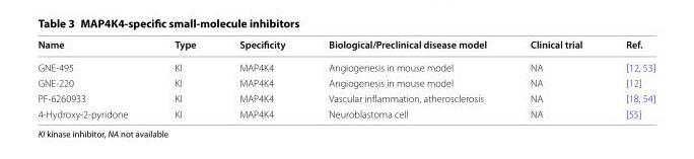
<table><thead><tr><td>Name</td><td>Type</td><td>Specificity</td><td>Biological/Preclinical disease model</td><td>Clinical trial</td><td>Ref.</td></tr></thead><tbody><tr><td>GNE-495</td><td>KI</td><td>MAP4K4</td><td>Angiogenesis in mouse model</td><td>NA</td><td>[12, 53]</td></tr><tr><td>GNE-220</td><td>KI</td><td>MAP4K4</td><td>Angiogenesis in mouse model</td><td>NA</td><td>[12]</td></tr><tr><td>PF-6260933</td><td>KI</td><td>MAP4K4</td><td>Vascular inflammation, atherosclerosis</td><td>NA</td><td>[18, 54]</td></tr><tr><td>4-Hydroxy-2-pyridone</td><td>KI</td><td>MAP4K4</td><td>Neuroblastoma cell</td><td>NA</td><td>[55]</td></tr></tbody></table>